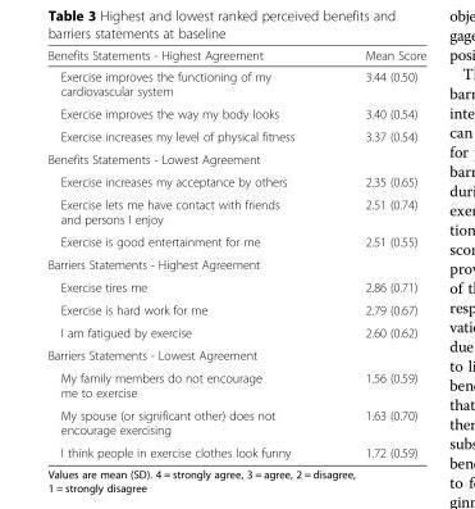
<table><thead><tr><td>Benefits Statements - Highest Agreement</td><td>Mean Score</td></tr></thead><tbody><tr><td>Exercise improves the functioning of my cardiovascular system</td><td>3.44 (0.50)</td></tr><tr><td>Exercise improves the way my body looks</td><td>3.40 (0.54)</td></tr><tr><td>Exercise increases my level of physical fitness</td><td>3.37 (0.54)</td></tr><tr><td colspan="2">Benefits Statements - Lowest Agreement</td></tr><tr><td>Exercise increases my acceptance by others</td><td>2.35 (0.65)</td></tr><tr><td>Exercise lets me have contact with friends and persons I enjoy</td><td>2.51 (0.74)</td></tr><tr><td>Exercise is good entertainment for me</td><td>2.51 (0.55)</td></tr><tr><td colspan="2">Barriers Statements - Highest Agreement</td></tr><tr><td>Exercise tires me</td><td>2.86 (0.71)</td></tr><tr><td>Exercise is hard work for me</td><td>2.79 (0.67)</td></tr><tr><td>I am fatigued by exercise</td><td>2.60 (0.62)</td></tr><tr><td colspan="2">Barriers Statements - Lowest Agreement</td></tr><tr><td>My family members do not encourage me to exercise</td><td>1.56 (0.59)</td></tr><tr><td>My spouse (or significant other) does not encourage exercising</td><td>1.63 (0.70)</td></tr><tr><td>I think people in exercise clothes look funny</td><td>1.72 (0.59)</td></tr></tbody></table>